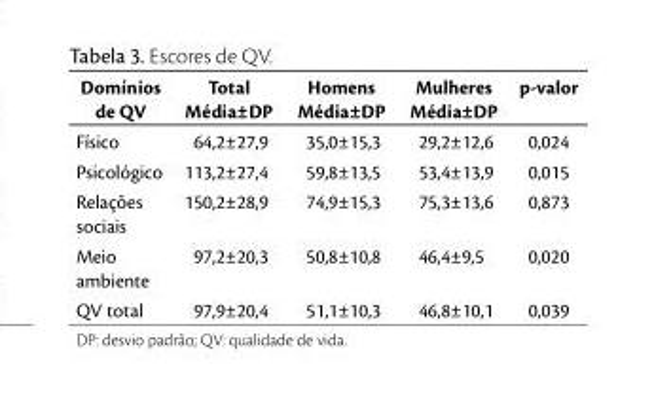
<table><thead><tr><td>Domínios de QV</td><td>Total Média±DP</td><td>Homens Média±DP</td><td>Mulheres Média±DP</td><td>p-valor</td></tr></thead><tbody><tr><td>Físico</td><td>64,2±27,9</td><td>35,0±15,3</td><td>29,2±12,6</td><td>0,024</td></tr><tr><td>Psicológico</td><td>113,2±27,4</td><td>59,8±13,5</td><td>53,4±13,9</td><td>0,015</td></tr><tr><td>Relações sociais</td><td>150,2±28,9</td><td>74,9±15,3</td><td>75,3±13,6</td><td>0,873</td></tr><tr><td>Meio ambiente</td><td>97,2±20,3</td><td>50,8±10,8</td><td>46,4±9,5</td><td>0,020</td></tr><tr><td>QV total</td><td>97,9±20,4</td><td>51,1±10,3</td><td>46,8±10,1</td><td>0,039</td></tr></tbody></table>